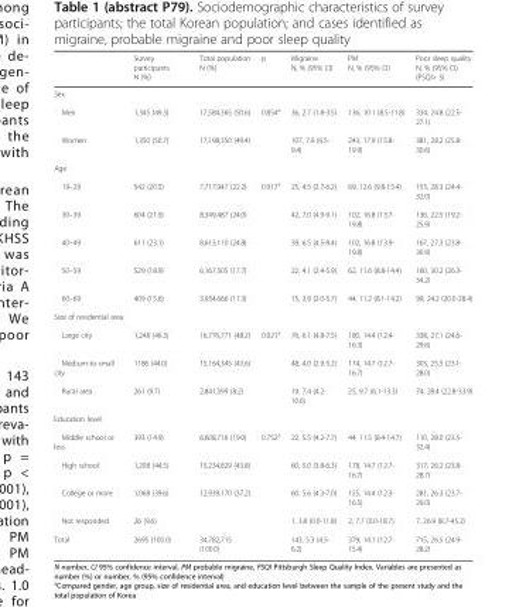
<table><thead><tr><td></td><td>Survey participants N (%)</td><td>Total population N (%)</td><td>p</td><td>Migraine N, % (95% CI)</td><td>PM N, % (95% CI)</td><td>Poor sleep quality N, % (95% CI) (PSQI&gt; 5)</td></tr></thead><tbody><tr><td colspan="7">Sex</td></tr><tr><td>Men</td><td>1,345 (49.3)</td><td>17,584,365 (50.6)</td><td rowspan="2">0.854<sup>a</sup></td><td>36, 2.7 (1.8-3.5)</td><td>136, 10.1 (8.5-11.8)</td><td>334, 24.8 (22.5- 27.1)</td></tr><tr><td>Women</td><td>1,350 (50.7)</td><td>17,198,350 (49.4)</td><td>107, 7.9 (6.5- 9.4)</td><td>243, 17.9 (15.8- 19.9)</td><td>381, 28.2 (25.8- 30.6)</td></tr><tr><td colspan="7">Age</td></tr><tr><td>19–29</td><td>542 (20.5)</td><td>7,717,947 (22.2)</td><td rowspan="5">0.917<sup>a</sup></td><td>25, 4.5 (2.7-6.2)</td><td>69, 12.6 (9.8-15.4)</td><td>153, 28.3 (24.4- 32.0)</td></tr><tr><td>30–39</td><td>604 (21.9)</td><td>8,349,487 (24.0)</td><td>42, 7.0 (4.9-9.1)</td><td>102, 16.8 (13.7- 19.8)</td><td>136, 22.5 (19.2- 25.9)</td></tr><tr><td>40–49</td><td>611 (23.1)</td><td>8,613,110 (24.8)</td><td>39, 6.5 (4.5-8.4)</td><td>102, 16.8 (13.9- 19.8)</td><td>167, 27.3 (23.8- 30.9)</td></tr><tr><td>50–59</td><td>529 (18.9)</td><td>6,167,505 (17.7)</td><td>22, 4.1 (2.4-5.9)</td><td>62, 11.6 (8.8-14.4)</td><td>160, 30.2 (26.3- 34.2)</td></tr><tr><td>60–69</td><td>409 (15.6)</td><td>3,934,666 (11.3)</td><td>15, 3.9 (2.0-5.7)</td><td>44, 11.2 (8.1-14.2)</td><td>99, 24.2 (20.0-28.4)</td></tr><tr><td colspan="7">Size of residential area</td></tr><tr><td>Large city</td><td>1,248 (46.3)</td><td>16,776,771 (48.2)</td><td rowspan="3">0.921<sup>a</sup></td><td>76, 6.1 (4.8-7.5)</td><td>180, 14.4 (12.4- 16.3)</td><td>338, 27.1 (24.6- 29.6)</td></tr><tr><td>Medium-to-small city</td><td>1186 (44.0)</td><td>15,164,345 (43.6)</td><td>48, 4.0 (2.9-5.2)</td><td>174, 14.7 (12.7- 16.7)</td><td>303, 25.5 (23.1- 28.0)</td></tr><tr><td>Rural area</td><td>261 (9.7)</td><td>2,841,599 (8.2)</td><td>19, 7.4 (4.2- 10.6)</td><td>25, 9.7 (6.1-13.3)</td><td>74, 28.4 (22.8-33.9)</td></tr><tr><td colspan="7">Education level</td></tr><tr><td>Middle school or less</td><td>393 (14.9)</td><td>6,608,716 (19.0)</td><td rowspan="3">0.752<sup>a</sup></td><td>22, 5.5 (4.2-7.7)</td><td>44, 11.5 (8.4-14.7)</td><td>110, 28.0 (23.5- 32.4)</td></tr><tr><td>High school</td><td>1,208 (44.5)</td><td>15,234,829 (43.8)</td><td>60, 5.0 (3.8-6.3)</td><td>178, 14.7 (12.7- 16.7)</td><td>317, 26.2 (23.8- 28.7)</td></tr><tr><td>College or more</td><td>1,068 (39.6)</td><td>12,939,170 (37.2)</td><td>60, 5.6 (4.3-7.0)</td><td>155, 14.4 (12.3- 16.5)</td><td>281, 26.3 (23.7- 29.0)</td></tr><tr><td>Not responded</td><td>26 (9.6)</td><td></td><td></td><td>1, 3.8 (0.0-11.8)</td><td>2, 7.7 (0.0-18.7)</td><td>7, 26.9 (8.7-45.2)</td></tr><tr><td>Total</td><td>2695 (100.0)</td><td>34,782,715 (100.0)</td><td></td><td>143, 5.3 (4.5- 6.2)</td><td>379, 14.1 (12.7- 15.4)</td><td>715, 26.5 (24.9- 28.2)</td></tr></tbody></table>